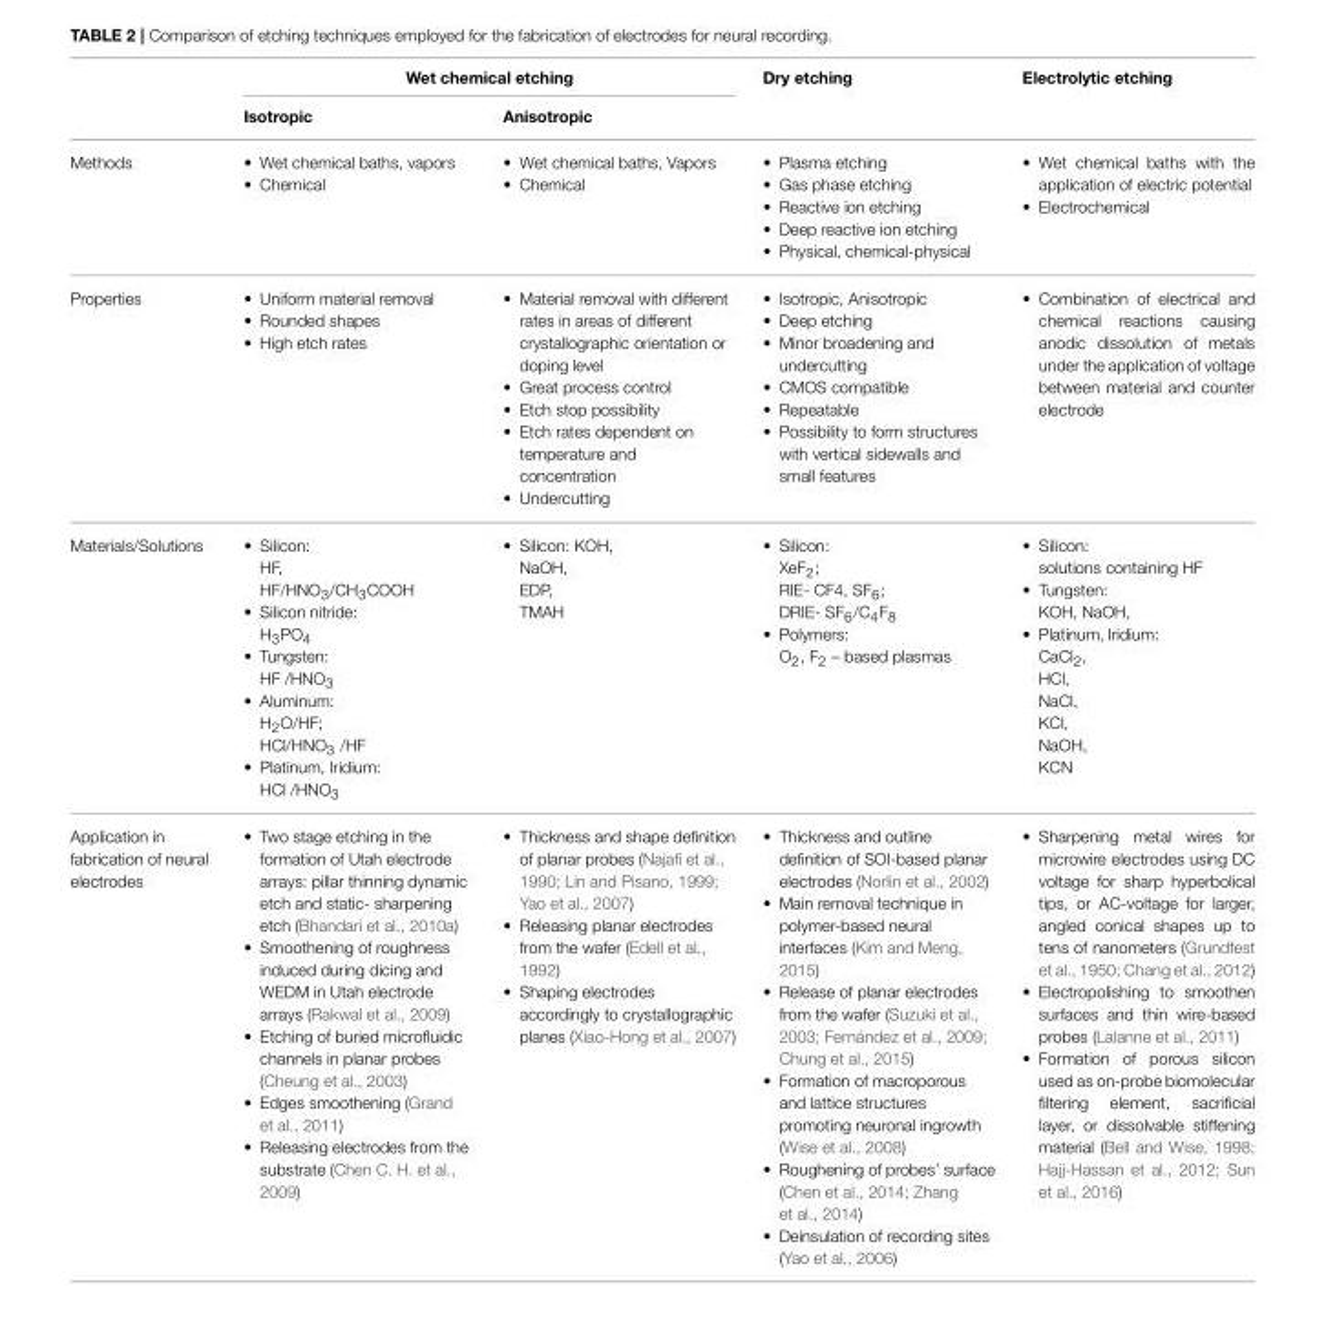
<table><thead><tr><td rowspan="2"></td><td colspan="2">Wet chemical etching</td><td rowspan="2">Dry etching</td><td rowspan="2">Electrolytic etching</td></tr><tr><td>Isotropic</td><td>Anisotropic</td></tr></thead><tbody><tr><td>Methods</td><td>• Wet chemical baths, vapors • Chemical</td><td>• Wet chemical baths, Vapors • Chemical</td><td>• Plasma etching • Gas phase etching • Reactive ion etching • Deep reactive ion etching • Physical, chemical-physical</td><td>• Wet chemical baths with the application of electric potential • Electrochemical</td></tr><tr><td>Properties</td><td>• Uniform material removal • Rounded shapes • High etch rates</td><td>• Material removal with different rates in areas of different crystallographic orientation or doping level • Great process control • Etch stop possibility • Etch rates dependent on temperature and concentration • Undercutting</td><td>• Isotropic, Anisotropic • Deep etching • Minor broadening and undercutting • CMOS compatible • Repeatable • Possibility to form structures with vertical sidewalls and small features</td><td>• Combination of electrical and chemical reactions causing anodic dissolution of metals under the application of voltage between material and counter electrode</td></tr><tr><td>Materials/Solutions</td><td>• Silicon: HF, HF/HNO3/CH3COOH • Silicon nitride: H3PO4 • Tungsten: HF /HNO3 • Aluminum: H2O/HF; HCl/HNO3 /HF • Platinum, Iridium: HCl /HNO3</td><td>• Silicon: KOH, NaOH, EDP, TMAH</td><td>• Silicon: XeF2; RIE- CF4, SF6; DRIE- SF6/C4F8 • Polymers: O2, F2 – based plasmas</td><td>• Silicon: solutions containing HF • Tungsten: KOH, NaOH, • Platinum, Iridium: CaCl2, HCl, NaCl, KCl, NaOH, KCN</td></tr><tr><td>Application in fabrication of neural electrodes</td><td>• Two stage etching in the formation of Utah electrode arrays: pillar thinning dynamic etch and static- sharpening etch (Bhandari et al., 2010a) • Smoothening of roughness induced during dicing and WEDM in Utah electrode arrays (Rakwal et al., 2009) • Etching of buried microfluidic channels in planar probes (Cheung et al., 2003) • Edges smoothening (Grand et al., 2011) • Releasing electrodes from the substrate (Chen C. H. et al., 2009)</td><td>• Thickness and shape definition of planar probes (Najafi et al., 1990; Lin and Pisano, 1999; Yao et al., 2007) • Releasing planar electrodes from the wafer (Edell et al., 1992) • Shaping electrodes accordingly to crystallographic planes (Xiao-Hong et al., 2007)</td><td>• Thickness and outline definition of SOI-based planar electrodes (Norlin et al., 2002) • Main removal technique in polymer-based neural interfaces (Kim and Meng, 2015) • Release of planar electrodes from the wafer (Suzuki et al., 2003; Fernández et al., 2009; Chung et al., 2015) • Formation of macroporous and lattice structures promoting neuronal ingrowth (Wise et al., 2008) • Roughening of probes’ surface (Chen et al., 2014; Zhang et al., 2014) • Deinsulation of recording sites (Yao et al., 2006)</td><td>• Sharpening metal wires for microwire electrodes using DC voltage for sharp hyperbolical tips, or AC-voltage for larger, angled conical shapes up to tens of nanometers (Grundfest et al., 1950; Chang et al., 2012) • Electropolishing to smoothen surfaces and thin wire-based probes (Lalanne et al., 2011) • Formation of porous silicon used as on-probe biomolecular filtering element, sacrificial layer, or dissolvable stiffening material (Bell and Wise, 1998; Hajj-Hassan et al., 2012; Sun et al., 2016)</td></tr></tbody></table>